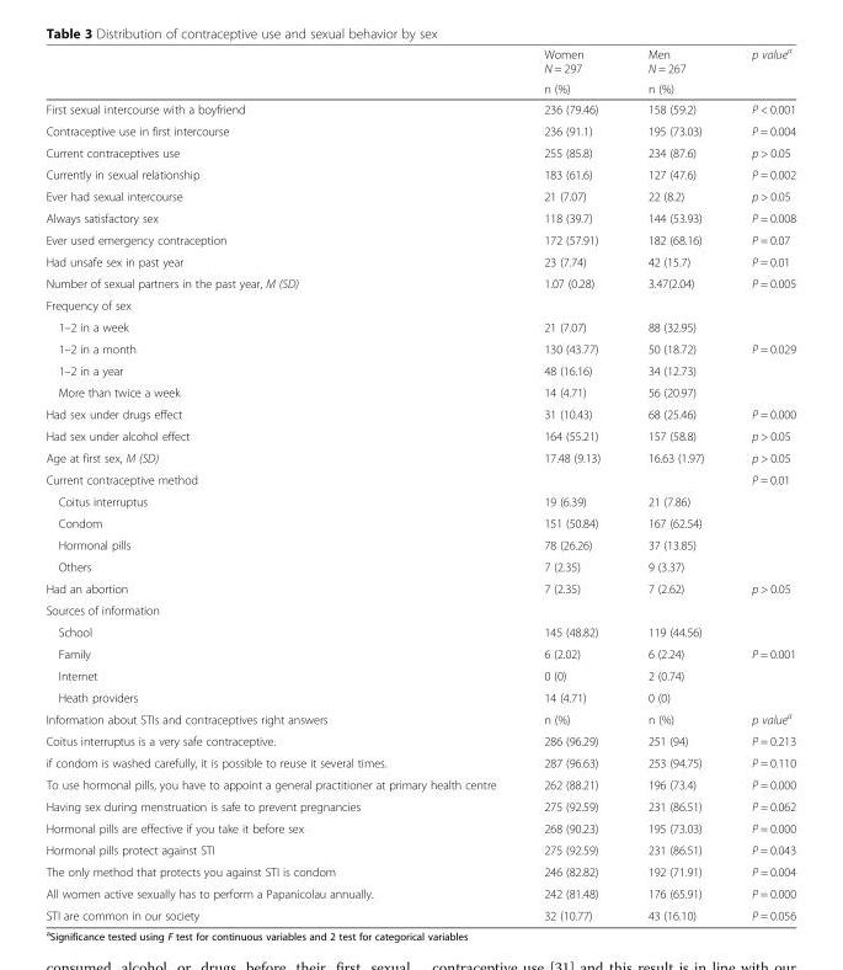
<table><thead><tr><td rowspan="2"></td><td rowspan="2">Women N = 297 n (%)</td><td rowspan="2">Men N = 267 n (%)</td><td rowspan="2">p value<sup>a</sup></td></tr><tr></tr></thead><tbody><tr><td>First sexual intercourse with a boyfriend</td><td>236 (79.46)</td><td>158 (59.2)</td><td>P &lt; 0.001</td></tr><tr><td>Contraceptive use in first intercourse</td><td>236 (91.1)</td><td>195 (73.03)</td><td>P = 0.004</td></tr><tr><td>Current contraceptives use</td><td>255 (85.8)</td><td>234 (87.6)</td><td>p &gt; 0.05</td></tr><tr><td>Currently in sexual relationship</td><td>183 (61.6)</td><td>127 (47.6)</td><td>P = 0.002</td></tr><tr><td>Ever had sexual intercourse</td><td>21 (7.07)</td><td>22 (8.2)</td><td>p &gt; 0.05</td></tr><tr><td>Always satisfactory sex</td><td>118 (39.7)</td><td>144 (53.93)</td><td>P = 0.008</td></tr><tr><td>Ever used emergency contraception</td><td>172 (57.91)</td><td>182 (68.16)</td><td>P = 0.07</td></tr><tr><td>Had unsafe sex in past year</td><td>23 (7.74)</td><td>42 (15.7)</td><td>P = 0.01</td></tr><tr><td>Number of sexual partners in the past year, M (SD)</td><td>1.07 (0.28)</td><td>3.47(2.04)</td><td>P = 0.005</td></tr><tr><td colspan="4">Frequency of sex</td></tr><tr><td>1–2 in a week</td><td>21 (7.07)</td><td>88 (32.95)</td><td></td></tr><tr><td>1–2 in a month</td><td>130 (43.77)</td><td>50 (18.72)</td><td>P = 0.029</td></tr><tr><td>1–2 in a year</td><td>48 (16.16)</td><td>34 (12.73)</td><td></td></tr><tr><td>More than twice a week</td><td>14 (4.71)</td><td>56 (20.97)</td><td></td></tr><tr><td>Had sex under drugs effect</td><td>31 (10.43)</td><td>68 (25.46)</td><td>P = 0.000</td></tr><tr><td>Had sex under alcohol effect</td><td>164 (55.21)</td><td>157 (58.8)</td><td>p &gt; 0.05</td></tr><tr><td>Age at first sex, M (SD)</td><td>17.48 (9.13)</td><td>16.63 (1.97)</td><td>p &gt; 0.05</td></tr><tr><td>Current contraceptive method</td><td></td><td></td><td>P = 0.01</td></tr><tr><td>Coitus interruptus</td><td>19 (6.39)</td><td>21 (7.86)</td><td></td></tr><tr><td>Condom</td><td>151 (50.84)</td><td>167 (62.54)</td><td></td></tr><tr><td>Hormonal pills</td><td>78 (26.26)</td><td>37 (13.85)</td><td></td></tr><tr><td>Others</td><td>7 (2.35)</td><td>9 (3.37)</td><td></td></tr><tr><td>Had an abortion</td><td>7 (2.35)</td><td>7 (2.62)</td><td>p &gt; 0.05</td></tr><tr><td colspan="4">Sources of information</td></tr><tr><td>School</td><td>145 (48.82)</td><td>119 (44.56)</td><td></td></tr><tr><td>Family</td><td>6 (2.02)</td><td>6 (2.24)</td><td>P = 0.001</td></tr><tr><td>Internet</td><td>0 (0)</td><td>2 (0.74)</td><td></td></tr><tr><td>Heath providers</td><td>14 (4.71)</td><td>0 (0)</td><td></td></tr><tr><td>Information about STIs and contraceptives right answers</td><td>n (%)</td><td>n (%)</td><td>p value<sup>a</sup></td></tr><tr><td>Coitus interruptus is a very safe contraceptive.</td><td>286 (96.29)</td><td>251 (94)</td><td>P = 0.213</td></tr><tr><td>if condom is washed carefully, it is possible to reuse it several times.</td><td>287 (96.63)</td><td>253 (94.75)</td><td>P = 0.110</td></tr><tr><td>To use hormonal pills, you have to appoint a general practitioner at primary health centre</td><td>262 (88.21)</td><td>196 (73.4)</td><td>P = 0.000</td></tr><tr><td>Having sex during menstruation is safe to prevent pregnancies</td><td>275 (92.59)</td><td>231 (86.51)</td><td>P = 0.062</td></tr><tr><td>Hormonal pills are effective if you take it before sex</td><td>268 (90.23)</td><td>195 (73.03)</td><td>P = 0.000</td></tr><tr><td>Hormonal pills protect against STI</td><td>275 (92.59)</td><td>231 (86.51)</td><td>P = 0.043</td></tr><tr><td>The only method that protects you against STI is condom</td><td>246 (82.82)</td><td>192 (71.91)</td><td>P = 0.004</td></tr><tr><td>All women active sexually has to perform a Papanicolau annually.</td><td>242 (81.48)</td><td>176 (65.91)</td><td>P = 0.000</td></tr><tr><td>STI are common in our society</td><td>32 (10.77)</td><td>43 (16.10)</td><td>P = 0.056</td></tr></tbody></table>